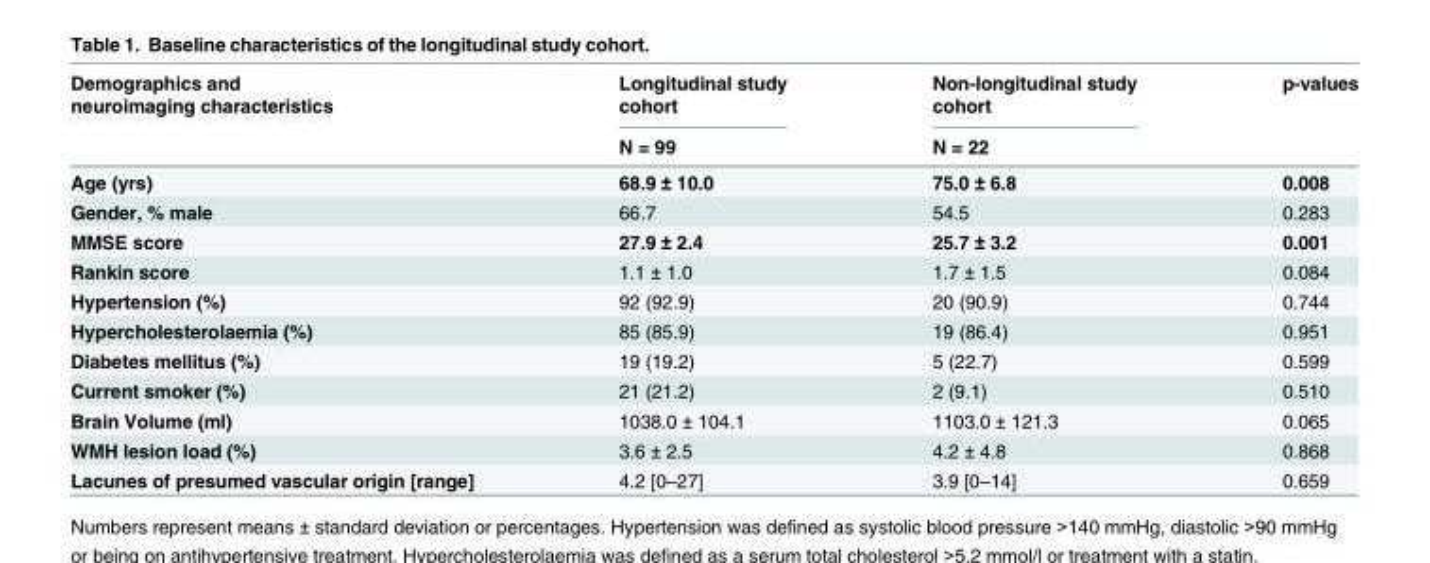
<table><thead><tr><td rowspan="2">Demographics and neuroimaging characteristics</td><td rowspan="2">Longitudinal study cohort N = 99</td><td rowspan="2">Non-longitudinal study cohort N = 22</td><td rowspan="2">p-values</td></tr><tr></tr></thead><tbody><tr><td>Age (yrs)</td><td>68.9 ± 10.0</td><td>75.0 ± 6.8</td><td>0.008</td></tr><tr><td>Gender, % male</td><td>66.7</td><td>54.5</td><td>0.283</td></tr><tr><td>MMSE score</td><td>27.9 ± 2.4</td><td>25.7 ± 3.2</td><td>0.001</td></tr><tr><td>Rankin score</td><td>1.1 ± 1.0</td><td>1.7 ± 1.5</td><td>0.084</td></tr><tr><td>Hypertension (%)</td><td>92 (92.9)</td><td>20 (90.9)</td><td>0.744</td></tr><tr><td>Hypercholesterolaemia (%)</td><td>85 (85.9)</td><td>19 (86.4)</td><td>0.951</td></tr><tr><td>Diabetes mellitus (%)</td><td>19 (19.2)</td><td>5 (22.7)</td><td>0.599</td></tr><tr><td>Current smoker (%)</td><td>21 (21.2)</td><td>2 (9.1)</td><td>0.510</td></tr><tr><td>Brain Volume (ml)</td><td>1038.0 ± 104.1</td><td>1103.0 ± 121.3</td><td>0.065</td></tr><tr><td>WMH lesion load (%)</td><td>3.6 ± 2.5</td><td>4.2 ± 4.8</td><td>0.868</td></tr><tr><td>Lacunes of presumed vascular origin [range]</td><td>4.2 [0–27]</td><td>3.9 [0–14]</td><td>0.659</td></tr></tbody></table>